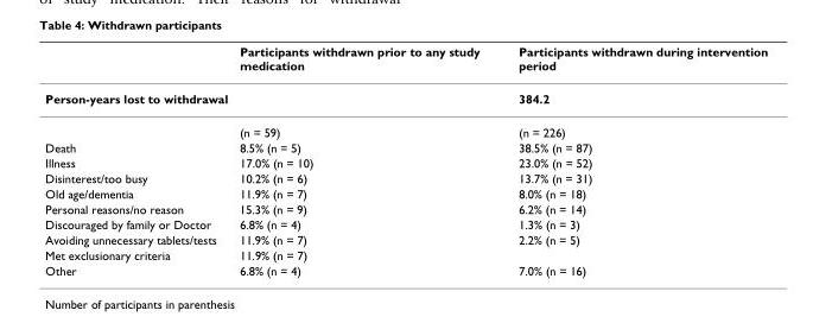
<table><thead><tr><td></td><td>Participants withdrawn prior to any study medication</td><td>Participants withdrawn during intervention period</td></tr></thead><tbody><tr><td rowspan="2">Person-years lost to withdrawal</td><td></td><td>384.2</td></tr><tr><td>(n = 59)</td><td>(n = 226)</td></tr><tr><td>Death</td><td>8.5% (n = 5)</td><td>38.5% (n = 87)</td></tr><tr><td>Illness</td><td>17.0% (n = 10)</td><td>23.0% (n = 52)</td></tr><tr><td>Disinterest/too busy</td><td>10.2% (n = 6)</td><td>13.7% (n = 31)</td></tr><tr><td>Old age/dementia</td><td>11.9% (n = 7)</td><td>8.0% (n = 18)</td></tr><tr><td>Personal reasons/no reason</td><td>15.3% (n = 9)</td><td>6.2% (n = 14)</td></tr><tr><td>Discouraged by family or Doctor</td><td>6.8% (n = 4)</td><td>1.3% (n = 3)</td></tr><tr><td>Avoiding unnecessary tablets/tests</td><td>11.9% (n = 7)</td><td>2.2% (n = 5)</td></tr><tr><td>Met exclusionary criteria</td><td>11.9% (n = 7)</td><td></td></tr><tr><td>Other</td><td>6.8% (n = 4)</td><td>7.0% (n = 16)</td></tr></tbody></table>